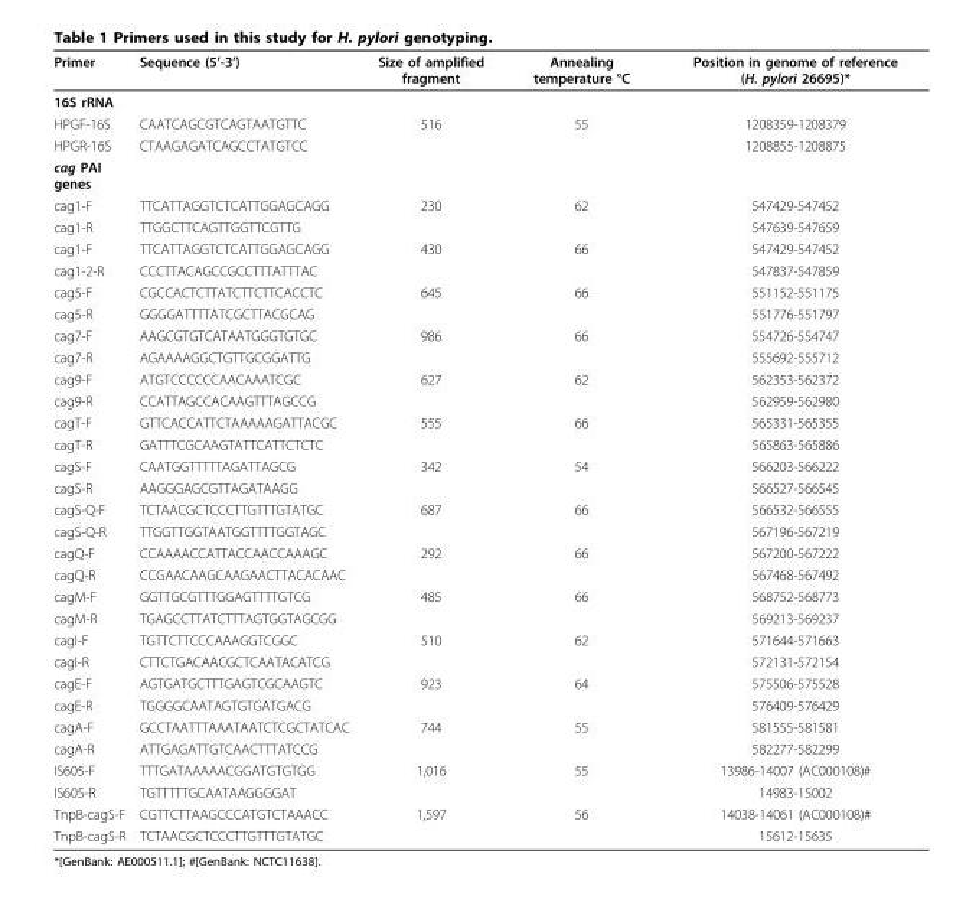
<table><thead><tr><td>Primer</td><td>Sequence (5’-3’)</td><td>Size of amplified fragment</td><td>Annealing temperature °C</td><td>Position in genome of reference (H. pylori 26695)*</td></tr></thead><tbody><tr><td colspan="5">16S rRNA</td></tr><tr><td>HPGF-16S</td><td>CAATCAGCGTCAGTAATGTTC</td><td>516</td><td>55</td><td>1208359-1208379</td></tr><tr><td>HPGR-16S</td><td>CTAAGAGATCAGCCTATGTCC</td><td></td><td></td><td>1208855-1208875</td></tr><tr><td colspan="5">cag PAI genes</td></tr><tr><td>cag1-F</td><td>TTCATTAGGTCTCATTGGAGCAGG</td><td>230</td><td>62</td><td>547429-547452</td></tr><tr><td>cag1-R</td><td>TTGGCTTCAGTTGGTTCGTTG</td><td></td><td></td><td>547639-547659</td></tr><tr><td>cag1-F</td><td>TTCATTAGGTCTCATTGGAGCAGG</td><td>430</td><td>66</td><td>547429-547452</td></tr><tr><td>cag1-2-R</td><td>CCCTTACAGCCGCCTTTATTTAC</td><td></td><td></td><td>547837-547859</td></tr><tr><td>cag5-F</td><td>CGCCACTCTTATCTTCTTCACCTC</td><td>645</td><td>66</td><td>551152-551175</td></tr><tr><td>cag5-R</td><td>GGGGATTTTATCGCTTACGCAG</td><td></td><td></td><td>551776-551797</td></tr><tr><td>cag7-F</td><td>AAGCGTGTCATAATGGGTGTGC</td><td>986</td><td>66</td><td>554726-554747</td></tr><tr><td>cag7-R</td><td>AGAAAAGGCTGTTGCGGATTG</td><td></td><td></td><td>555692-555712</td></tr><tr><td>cag9-F</td><td>ATGTCCCCCCAACAAATCGC</td><td>627</td><td>62</td><td>562353-562372</td></tr><tr><td>cag9-R</td><td>CCATTAGCCACAAGTTTAGCCG</td><td></td><td></td><td>562959-562980</td></tr><tr><td>cagT-F</td><td>GTTCACCATTCTAAAAAGATTACGC</td><td>555</td><td>66</td><td>565331-565355</td></tr><tr><td>cagT-R</td><td>GATTTCGCAAGTATTCATTCTCTC</td><td></td><td></td><td>565863-565886</td></tr><tr><td>cagS-F</td><td>CAATGGTTTTTAGATTAGCG</td><td>342</td><td>54</td><td>566203-566222</td></tr><tr><td>cagS-R</td><td>AAGGGAGCGTTAGATAAGG</td><td></td><td></td><td>566527-566545</td></tr><tr><td>cagS-Q-F</td><td>TCTAACGCTCCCTTGTTTGTATGC</td><td>687</td><td>66</td><td>566532-566555</td></tr><tr><td>cagS-Q-R</td><td>TTGGTTGGTAATGGTTTTGGTAGC</td><td></td><td></td><td>567196-567219</td></tr><tr><td>cagQ-F</td><td>CCAAAACCATTACCAACCAAAGC</td><td>292</td><td>66</td><td>567200-567222</td></tr><tr><td>cagQ-R</td><td>CCGAACAAGCAAGAACTTACACAAC</td><td></td><td></td><td>567468-567492</td></tr><tr><td>cagM-F</td><td>GGTTGCGTTTGGAGTTTTGTCG</td><td>485</td><td>66</td><td>568752-568773</td></tr><tr><td>cagM-R</td><td>TGAGCCTTATCTTTAGTGGTAGCGG</td><td></td><td></td><td>569213-569237</td></tr><tr><td>cagI-F</td><td>TGTTCTTCCCAAAGGTCGGC</td><td>510</td><td>62</td><td>571644-571663</td></tr><tr><td>cagI-R</td><td>CTTCTGACAACGCTCAATACATCG</td><td></td><td></td><td>572131-572154</td></tr><tr><td>cagE-F</td><td>AGTGATGCTTTGAGTCGCAAGTC</td><td>923</td><td>64</td><td>575506-575528</td></tr><tr><td>cagE-R</td><td>TGGGGCAATAGTGTGATGACG</td><td></td><td></td><td>576409-576429</td></tr><tr><td>cagA-F</td><td>GCCTAATTTAAATAATCTCGCTATCAC</td><td>744</td><td>55</td><td>581555-581581</td></tr><tr><td>cagA-R</td><td>ATTGAGATTGTCAACTTTATCCG</td><td></td><td></td><td>582277-582299</td></tr><tr><td>IS605-F</td><td>TTTGATAAAAACGGATGTGTGG</td><td>1,016</td><td>55</td><td>13986-14007 (AC000108)#</td></tr><tr><td>IS605-R</td><td>TGTTTTTGCAATAAGGGGAT</td><td></td><td></td><td>14983-15002</td></tr><tr><td>TnpB-cagS-F</td><td>CGTTCTTAAGCCCATGTCTAAACC</td><td>1,597</td><td>56</td><td>14038-14061 (AC000108)#</td></tr><tr><td>TnpB-cagS-R</td><td>TCTAACGCTCCCTTGTTTGTATGC</td><td></td><td></td><td>15612-15635</td></tr></tbody></table>